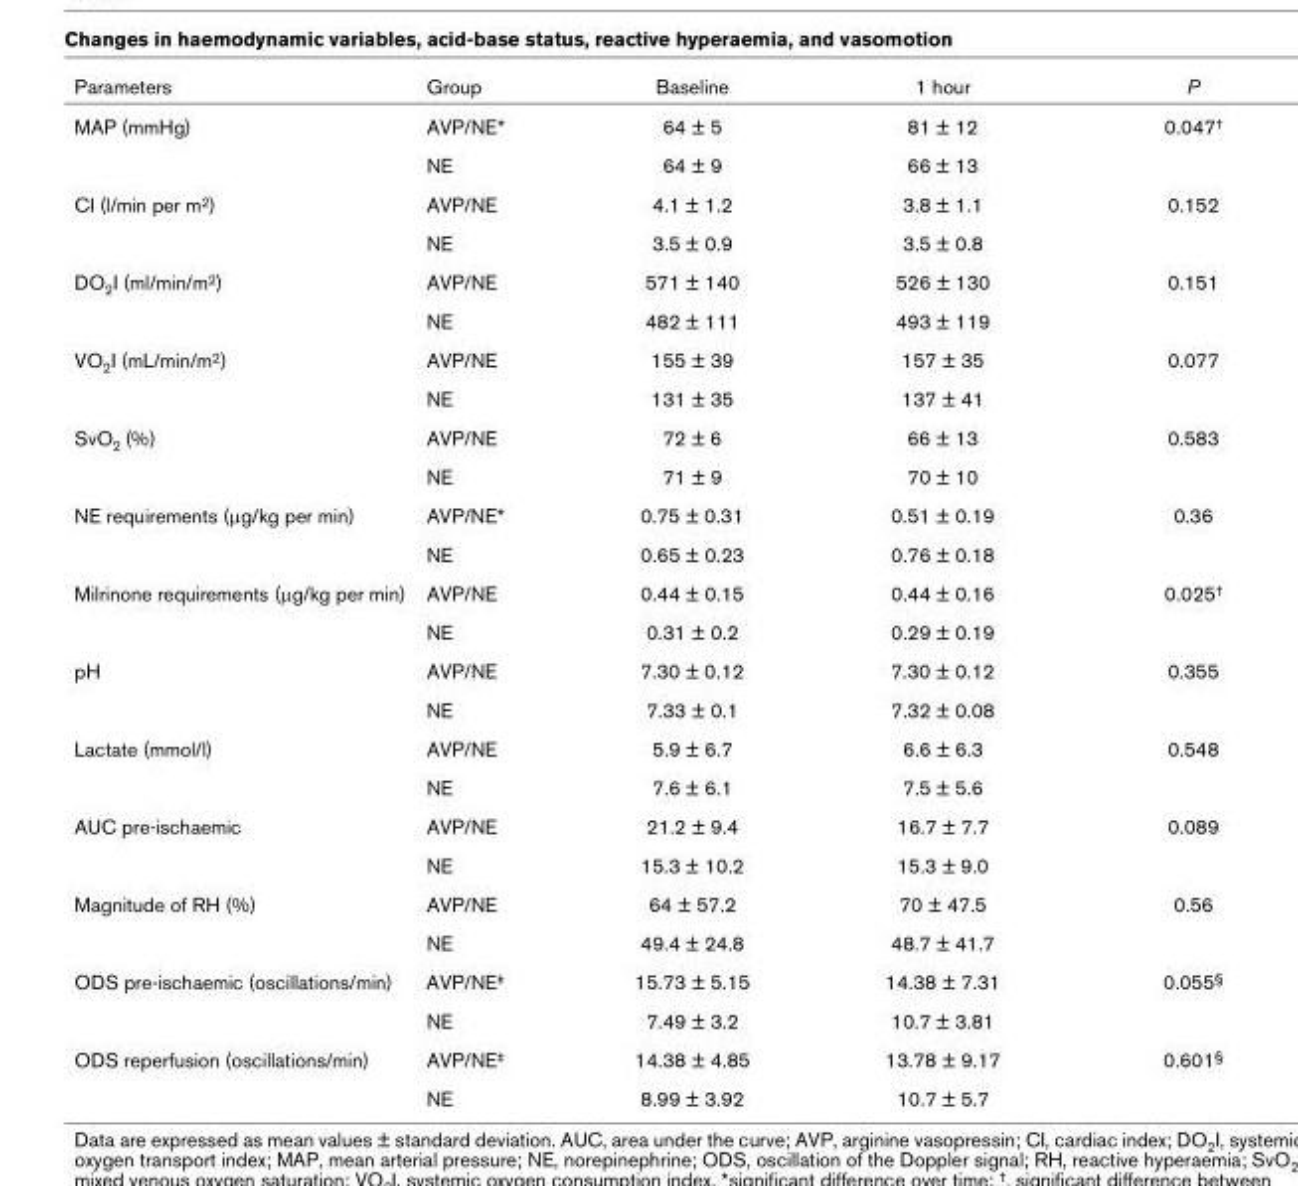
<table><thead><tr><td>Parameters</td><td>Group</td><td>Baseline</td><td>1 hour</td><td>P</td></tr></thead><tbody><tr><td rowspan="2">MAP (mmHg)</td><td>AVP/NE*</td><td>64 ± 5</td><td>81 ± 12</td><td>0.047†</td></tr><tr><td>NE</td><td>64 ± 9</td><td>66 ± 13</td><td></td></tr><tr><td rowspan="2">CI (l/min per m2)</td><td>AVP/NE</td><td>4.1 ± 1.2</td><td>3.8 ± 1.1</td><td>0.152</td></tr><tr><td>NE</td><td>3.5 ± 0.9</td><td>3.5 ± 0.8</td><td></td></tr><tr><td rowspan="2">DO2I (ml/min/m2)</td><td>AVP/NE</td><td>571 ± 140</td><td>526 ± 130</td><td>0.151</td></tr><tr><td>NE</td><td>482 ± 111</td><td>493 ± 119</td><td></td></tr><tr><td rowspan="2">VO2I (mL/min/m2)</td><td>AVP/NE</td><td>155 ± 39</td><td>157 ± 35</td><td>0.077</td></tr><tr><td>NE</td><td>131 ± 35</td><td>137 ± 41</td><td></td></tr><tr><td rowspan="2">SvO2 (%)</td><td>AVP/NE</td><td>72 ± 6</td><td>66 ± 13</td><td>0.583</td></tr><tr><td>NE</td><td>71 ± 9</td><td>70 ± 10</td><td></td></tr><tr><td rowspan="2">NE requirements (µg/kg per min)</td><td>AVP/NE*</td><td>0.75 ± 0.31</td><td>0.51 ± 0.19</td><td>0.36</td></tr><tr><td>NE</td><td>0.65 ± 0.23</td><td>0.76 ± 0.18</td><td></td></tr><tr><td rowspan="2">Milrinone requirements (µg/kg per min)</td><td>AVP/NE</td><td>0.44 ± 0.15</td><td>0.44 ± 0.16</td><td>0.025†</td></tr><tr><td>NE</td><td>0.31 ± 0.2</td><td>0.29 ± 0.19</td><td></td></tr><tr><td rowspan="2">pH</td><td>AVP/NE</td><td>7.30 ± 0.12</td><td>7.30 ± 0.12</td><td>0.355</td></tr><tr><td>NE</td><td>7.33 ± 0.1</td><td>7.32 ± 0.08</td><td></td></tr><tr><td rowspan="2">Lactate (mmol/l)</td><td>AVP/NE</td><td>5.9 ± 6.7</td><td>6.6 ± 6.3</td><td>0.548</td></tr><tr><td>NE</td><td>7.6 ± 6.1</td><td>7.5 ± 5.6</td><td></td></tr><tr><td rowspan="2">AUC pre-ischaemic</td><td>AVP/NE</td><td>21.2 ± 9.4</td><td>16.7 ± 7.7</td><td>0.089</td></tr><tr><td>NE</td><td>15.3 ± 10.2</td><td>15.3 ± 9.0</td><td></td></tr><tr><td rowspan="2">Magnitude of RH (%)</td><td>AVP/NE</td><td>64 ± 57.2</td><td>70 ± 47.5</td><td>0.56</td></tr><tr><td>NE</td><td>49.4 ± 24.8</td><td>48.7 ± 41.7</td><td></td></tr><tr><td rowspan="2">ODS pre-ischaemic (oscillations/min)</td><td>AVP/NE‡</td><td>15.73 ± 5.15</td><td>14.38 ± 7.31</td><td>0.055§</td></tr><tr><td>NE</td><td>7.49 ± 3.2</td><td>10.7 ± 3.81</td><td></td></tr><tr><td rowspan="2">ODS reperfusion (oscillations/min)</td><td>AVP/NE‡</td><td>14.38 ± 4.85</td><td>13.78 ± 9.17</td><td>0.601§</td></tr><tr><td>NE</td><td>8.99 ± 3.92</td><td>10.7 ± 5.7</td><td></td></tr></tbody></table>